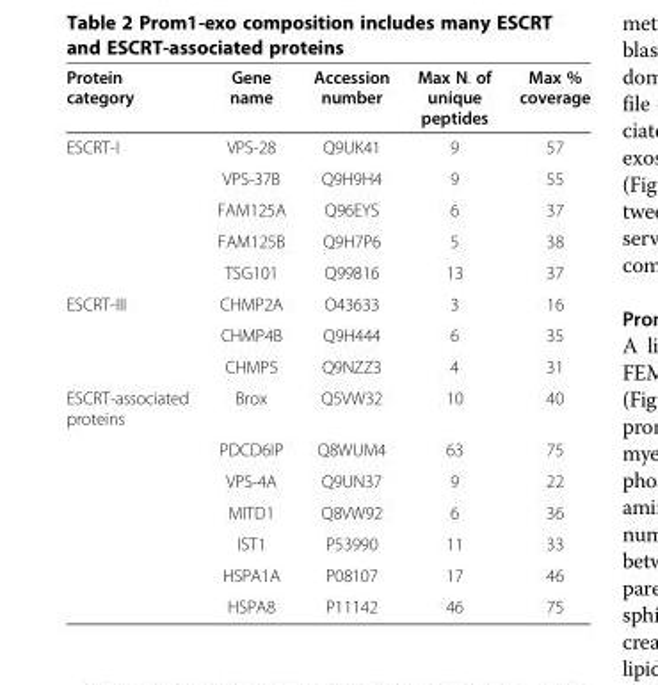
<table><thead><tr><td>Protein category</td><td>Gene name</td><td>Accession number</td><td>Max N. of unique peptides</td><td>Max % coverage</td></tr></thead><tbody><tr><td rowspan="5">ESCRT-I</td><td>VPS-28</td><td>Q9UK41</td><td>9</td><td>57</td></tr><tr><td>VPS-37B</td><td>Q9H9H4</td><td>9</td><td>55</td></tr><tr><td>FAM125A</td><td>Q96EYS</td><td>6</td><td>37</td></tr><tr><td>FAM125B</td><td>Q9H7P6</td><td>5</td><td>38</td></tr><tr><td>TSG101</td><td>Q99816</td><td>13</td><td>37</td></tr><tr><td rowspan="3">ESCRT-III</td><td>CHMP2A</td><td>O43633</td><td>3</td><td>16</td></tr><tr><td>CHMP4B</td><td>Q9H444</td><td>6</td><td>35</td></tr><tr><td>CHMP5</td><td>Q9NZZ3</td><td>4</td><td>31</td></tr><tr><td rowspan="7">ESCRT-associated proteins</td><td>Brox</td><td>Q5VW32</td><td>10</td><td>40</td></tr><tr><td>PDCD6IP</td><td>Q8WUM4</td><td>63</td><td>75</td></tr><tr><td>VPS-4A</td><td>Q9UN37</td><td>9</td><td>22</td></tr><tr><td>MITD1</td><td>Q8VW92</td><td>6</td><td>36</td></tr><tr><td>IST1</td><td>P53990</td><td>11</td><td>33</td></tr><tr><td>HSPA1A</td><td>P08107</td><td>17</td><td>46</td></tr><tr><td>HSPA8</td><td>P11142</td><td>46</td><td>75</td></tr></tbody></table>